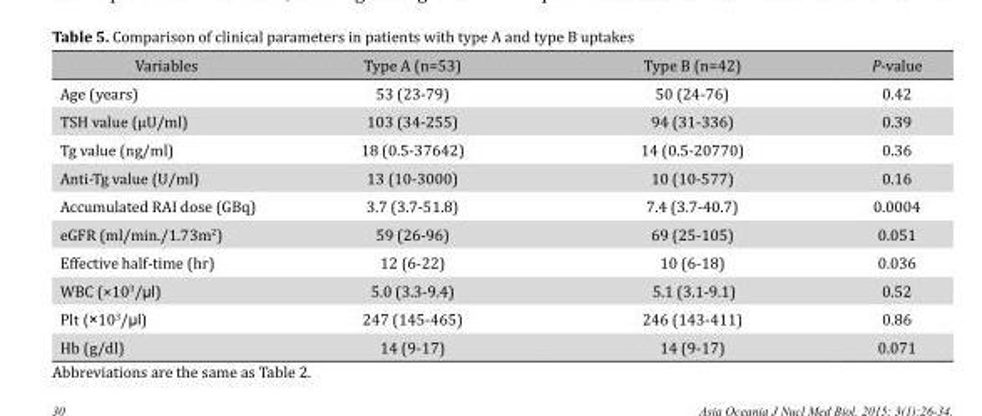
<table><thead><tr><td>Variables</td><td>Type A (n=53)</td><td>Type B (n=42)</td><td>P-value</td></tr></thead><tbody><tr><td>Age (years)</td><td>53 (23-79)</td><td>50 (24-76)</td><td>0.42</td></tr><tr><td>TSH value (μU/ml)</td><td>103 (34-255)</td><td>94 (31-336)</td><td>0.39</td></tr><tr><td>Tg value (ng/ml)</td><td>18 (0.5-37642)</td><td>14 (0.5-20770)</td><td>0.36</td></tr><tr><td>Anti-Tg value (U/ml)</td><td>13 (10-3000)</td><td>10 (10-577)</td><td>0.16</td></tr><tr><td>Accumulated RAI dose (GBq)</td><td>3.7 (3.7-51.8)</td><td>7.4 (3.7-40.7)</td><td>0.0004</td></tr><tr><td>eGFR (ml/min./1.73m<sup>2</sup>)</td><td>59 (26-96)</td><td>69 (25-105)</td><td>0.051</td></tr><tr><td>Effective half-time (hr)</td><td>12 (6-22)</td><td>10 (6-18)</td><td>0.036</td></tr><tr><td>WBC (×10<sup>3</sup>/μl)</td><td>5.0 (3.3-9.4)</td><td>5.1 (3.1-9.1)</td><td>0.52</td></tr><tr><td>Plt (×10<sup>3</sup>/μl)</td><td>247 (145-465)</td><td>246 (143-411)</td><td>0.86</td></tr><tr><td>Hb (g/dl)</td><td>14 (9-17)</td><td>14 (9-17)</td><td>0.071</td></tr></tbody></table>